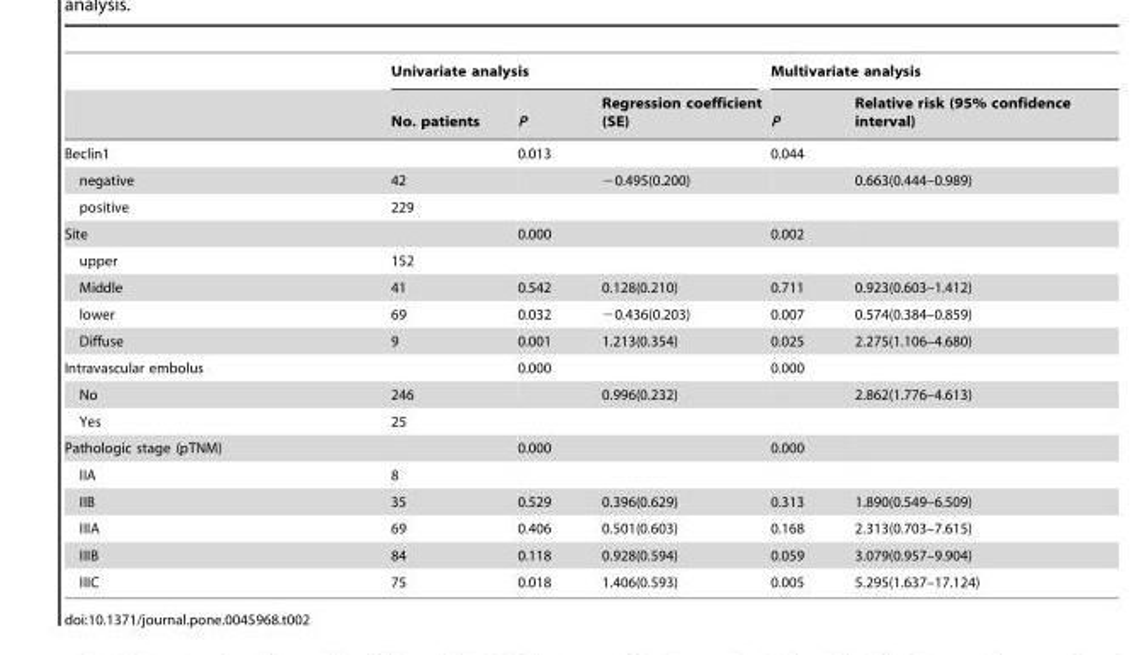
<table><thead><tr><td rowspan="2"></td><td colspan="3">Univariate analysis</td><td colspan="2">Multivariate analysis</td></tr><tr><td>No. patients</td><td>P</td><td>Regression coefficient (SE)</td><td>P</td><td>Relative risk (95% confidence interval)</td></tr></thead><tbody><tr><td>Beclin1</td><td></td><td>0.013</td><td></td><td>0.044</td><td></td></tr><tr><td>negative</td><td>42</td><td></td><td>−0.495(0.200)</td><td></td><td>0.663(0.444–0.989)</td></tr><tr><td>positive</td><td>229</td><td></td><td></td><td></td><td></td></tr><tr><td>Site</td><td></td><td>0.000</td><td></td><td>0.002</td><td></td></tr><tr><td>upper</td><td>152</td><td></td><td></td><td></td><td></td></tr><tr><td>Middle</td><td>41</td><td>0.542</td><td>0.128(0.210)</td><td>0.711</td><td>0.923(0.603–1.412)</td></tr><tr><td>lower</td><td>69</td><td>0.032</td><td>−0.436(0.203)</td><td>0.007</td><td>0.574(0.384–0.859)</td></tr><tr><td>Diffuse</td><td>9</td><td>0.001</td><td>1.213(0.354)</td><td>0.025</td><td>2.275(1.106–4.680)</td></tr><tr><td>Intravascular embolus</td><td></td><td>0.000</td><td></td><td>0.000</td><td></td></tr><tr><td>No</td><td>246</td><td></td><td>0.996(0.232)</td><td></td><td>2.862(1.776–4.613)</td></tr><tr><td>Yes</td><td>25</td><td></td><td></td><td></td><td></td></tr><tr><td>Pathologic stage (pTNM)</td><td></td><td>0.000</td><td></td><td>0.000</td><td></td></tr><tr><td>IIA</td><td>8</td><td></td><td></td><td></td><td></td></tr><tr><td>IIB</td><td>35</td><td>0.529</td><td>0.396(0.629)</td><td>0.313</td><td>1.890(0.549–6.509)</td></tr><tr><td>IIIA</td><td>69</td><td>0.406</td><td>0.501(0.603)</td><td>0.168</td><td>2.313(0.703–7.615)</td></tr><tr><td>IIIB</td><td>84</td><td>0.118</td><td>0.928(0.594)</td><td>0.059</td><td>3.079(0.957–9.904)</td></tr><tr><td>IIIC</td><td>75</td><td>0.018</td><td>1.406(0.593)</td><td>0.005</td><td>5.295(1.637–17.124)</td></tr></tbody></table>